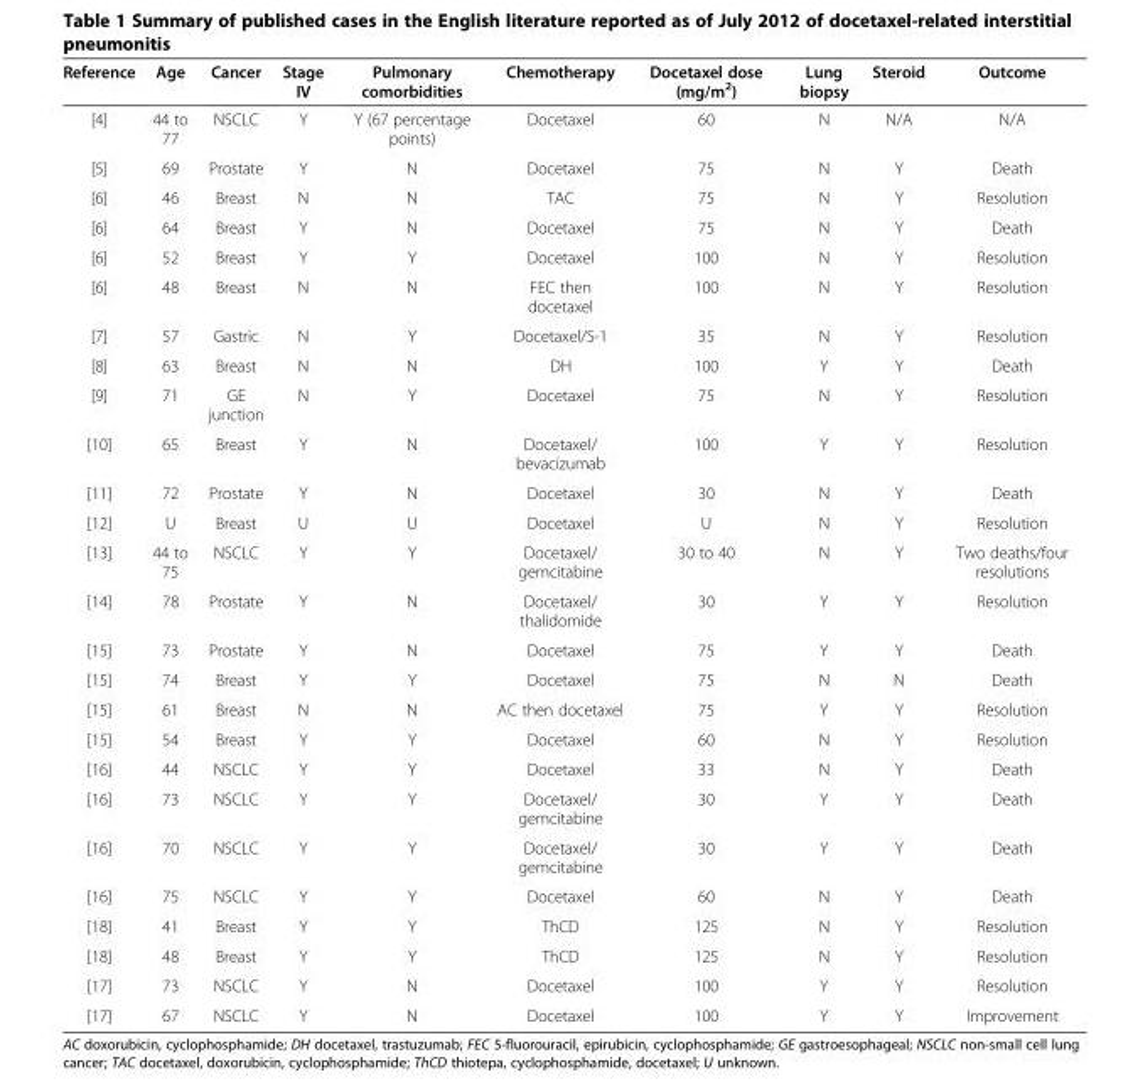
<table><thead><tr><td>Reference</td><td>Age</td><td>Cancer</td><td>Stage IV</td><td>Pulmonary comorbidities</td><td>Chemotherapy</td><td>Docetaxel dose (mg/m<sup>2</sup>)</td><td>Lung biopsy</td><td>Steroid</td><td>Outcome</td></tr></thead><tbody><tr><td>[4]</td><td>44 to 77</td><td>NSCLC</td><td>Y</td><td>Y (67 percentage points)</td><td>Docetaxel</td><td>60</td><td>N</td><td>N/A</td><td>N/A</td></tr><tr><td>[5]</td><td>69</td><td>Prostate</td><td>Y</td><td>N</td><td>Docetaxel</td><td>75</td><td>N</td><td>Y</td><td>Death</td></tr><tr><td>[6]</td><td>46</td><td>Breast</td><td>N</td><td>N</td><td>TAC</td><td>75</td><td>N</td><td>Y</td><td>Resolution</td></tr><tr><td>[6]</td><td>64</td><td>Breast</td><td>Y</td><td>N</td><td>Docetaxel</td><td>75</td><td>N</td><td>Y</td><td>Death</td></tr><tr><td>[6]</td><td>52</td><td>Breast</td><td>Y</td><td>Y</td><td>Docetaxel</td><td>100</td><td>N</td><td>Y</td><td>Resolution</td></tr><tr><td>[6]</td><td>48</td><td>Breast</td><td>N</td><td>N</td><td>FEC then docetaxel</td><td>100</td><td>N</td><td>Y</td><td>Resolution</td></tr><tr><td>[7]</td><td>57</td><td>Gastric</td><td>N</td><td>Y</td><td>Docetaxel/S-1</td><td>35</td><td>N</td><td>Y</td><td>Resolution</td></tr><tr><td>[8]</td><td>63</td><td>Breast</td><td>N</td><td>N</td><td>DH</td><td>100</td><td>Y</td><td>Y</td><td>Death</td></tr><tr><td>[9]</td><td>71</td><td>GE junction</td><td>N</td><td>Y</td><td>Docetaxel</td><td>75</td><td>N</td><td>Y</td><td>Resolution</td></tr><tr><td>[10]</td><td>65</td><td>Breast</td><td>Y</td><td>N</td><td>Docetaxel/ bevacizumab</td><td>100</td><td>Y</td><td>Y</td><td>Resolution</td></tr><tr><td>[11]</td><td>72</td><td>Prostate</td><td>Y</td><td>N</td><td>Docetaxel</td><td>30</td><td>N</td><td>Y</td><td>Death</td></tr><tr><td>[12]</td><td>U</td><td>Breast</td><td>U</td><td>U</td><td>Docetaxel</td><td>U</td><td>N</td><td>Y</td><td>Resolution</td></tr><tr><td>[13]</td><td>44 to 75</td><td>NSCLC</td><td>Y</td><td>Y</td><td>Docetaxel/ gemcitabine</td><td>30 to 40</td><td>N</td><td>Y</td><td>Two deaths/four resolutions</td></tr><tr><td>[14]</td><td>78</td><td>Prostate</td><td>Y</td><td>N</td><td>Docetaxel/ thalidomide</td><td>30</td><td>Y</td><td>Y</td><td>Resolution</td></tr><tr><td>[15]</td><td>73</td><td>Prostate</td><td>Y</td><td>N</td><td>Docetaxel</td><td>75</td><td>Y</td><td>Y</td><td>Death</td></tr><tr><td>[15]</td><td>74</td><td>Breast</td><td>Y</td><td>Y</td><td>Docetaxel</td><td>75</td><td>N</td><td>N</td><td>Death</td></tr><tr><td>[15]</td><td>61</td><td>Breast</td><td>N</td><td>N</td><td>AC then docetaxel</td><td>75</td><td>Y</td><td>Y</td><td>Resolution</td></tr><tr><td>[15]</td><td>54</td><td>Breast</td><td>Y</td><td>Y</td><td>Docetaxel</td><td>60</td><td>N</td><td>Y</td><td>Resolution</td></tr><tr><td>[16]</td><td>44</td><td>NSCLC</td><td>Y</td><td>Y</td><td>Docetaxel</td><td>33</td><td>N</td><td>Y</td><td>Death</td></tr><tr><td>[16]</td><td>73</td><td>NSCLC</td><td>Y</td><td>Y</td><td>Docetaxel/ gemcitabine</td><td>30</td><td>Y</td><td>Y</td><td>Death</td></tr><tr><td>[16]</td><td>70</td><td>NSCLC</td><td>Y</td><td>Y</td><td>Docetaxel/ gemcitabine</td><td>30</td><td>Y</td><td>Y</td><td>Death</td></tr><tr><td>[16]</td><td>75</td><td>NSCLC</td><td>Y</td><td>Y</td><td>Docetaxel</td><td>60</td><td>N</td><td>Y</td><td>Death</td></tr><tr><td>[18]</td><td>41</td><td>Breast</td><td>Y</td><td>Y</td><td>ThCD</td><td>125</td><td>N</td><td>Y</td><td>Resolution</td></tr><tr><td>[18]</td><td>48</td><td>Breast</td><td>Y</td><td>Y</td><td>ThCD</td><td>125</td><td>N</td><td>Y</td><td>Resolution</td></tr><tr><td>[17]</td><td>73</td><td>NSCLC</td><td>Y</td><td>N</td><td>Docetaxel</td><td>100</td><td>Y</td><td>Y</td><td>Resolution</td></tr><tr><td>[17]</td><td>67</td><td>NSCLC</td><td>Y</td><td>N</td><td>Docetaxel</td><td>100</td><td>Y</td><td>Y</td><td>Improvement</td></tr></tbody></table>